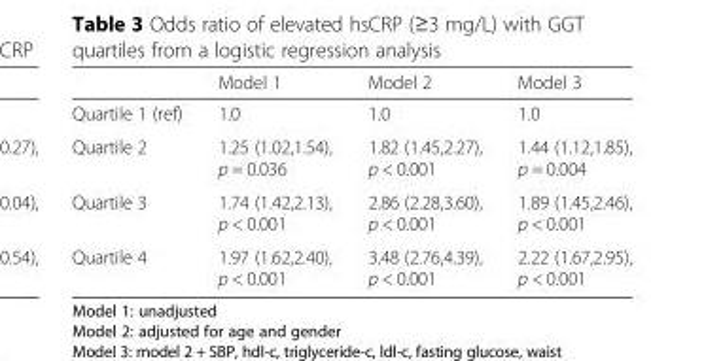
<table><thead><tr><td></td><td>Model 1</td><td>Model 2</td><td>Model 3</td></tr></thead><tbody><tr><td>Quartile 1 (ref)</td><td>1.0</td><td>1.0</td><td>1.0</td></tr><tr><td>Quartile 2</td><td>1.25 (1.02,1.54), p = 0.036</td><td>1.82 (1.45,2.27), p &lt; 0.001</td><td>1.44 (1.12,1.85), p = 0.004</td></tr><tr><td>Quartile 3</td><td>1.74 (1.42,2.13), p &lt; 0.001</td><td>2.86 (2.28,3.60), p &lt; 0.001</td><td>1.89 (1.45,2.46), p &lt; 0.001</td></tr><tr><td>Quartile 4</td><td>1.97 (1.62,2.40), p &lt; 0.001</td><td>3.48 (2.76,4.39), p &lt; 0.001</td><td>2.22 (1.67,2.95), p &lt; 0.001</td></tr></tbody></table>